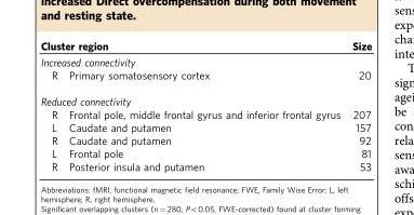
<table><thead><tr><td rowspan="2" colspan="2">Cluster region Increased connectivity</td><td rowspan="3">Size 20</td></tr><tr></tr><tr><td>R</td><td>Primary somatosensory cortex</td></tr></thead><tbody><tr><td colspan="3">Reduced connectivity</td></tr><tr><td>R</td><td>Frontal pole, middle frontal gyrus and inferior frontal gyrus</td><td>207</td></tr><tr><td>L</td><td>Caudate and putamen</td><td>157</td></tr><tr><td>R</td><td>Caudate and putamen</td><td>92</td></tr><tr><td>L</td><td>Frontal pole</td><td>81</td></tr><tr><td>R</td><td>Posterior insula and putamen</td><td>53</td></tr></tbody></table>